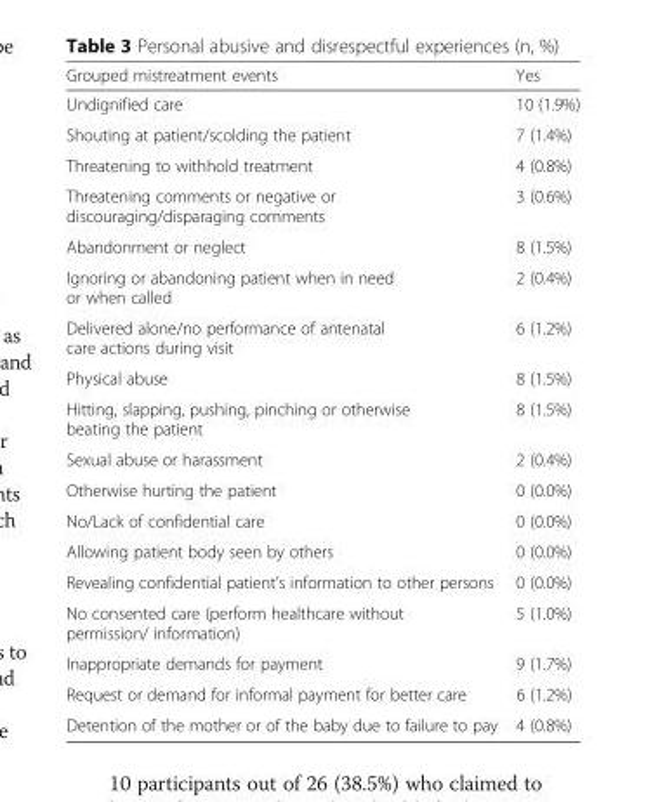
<table><thead><tr><td>Grouped mistreatment events</td><td>Yes</td></tr></thead><tbody><tr><td>Undignified care</td><td>10 (1.9%)</td></tr><tr><td>Shouting at patient/scolding the patient</td><td>7 (1.4%)</td></tr><tr><td>Threatening to withhold treatment</td><td>4 (0.8%)</td></tr><tr><td>Threatening comments or negative or discouraging/disparaging comments</td><td>3 (0.6%)</td></tr><tr><td>Abandonment or neglect</td><td>8 (1.5%)</td></tr><tr><td>Ignoring or abandoning patient when in need or when called</td><td>2 (0.4%)</td></tr><tr><td>Delivered alone/no performance of antenatal care actions during visit</td><td>6 (1.2%)</td></tr><tr><td>Physical abuse</td><td>8 (1.5%)</td></tr><tr><td>Hitting, slapping, pushing, pinching or otherwise beating the patient</td><td>8 (1.5%)</td></tr><tr><td>Sexual abuse or harassment</td><td>2 (0.4%)</td></tr><tr><td>Otherwise hurting the patient</td><td>0 (0.0%)</td></tr><tr><td>No/Lack of confidential care</td><td>0 (0.0%)</td></tr><tr><td>Allowing patient body seen by others</td><td>0 (0.0%)</td></tr><tr><td>Revealing confidential patient’s information to other persons</td><td>0 (0.0%)</td></tr><tr><td>No consented care (perform healthcare without permission/ information)</td><td>5 (1.0%)</td></tr><tr><td>Inappropriate demands for payment</td><td>9 (1.7%)</td></tr><tr><td>Request or demand for informal payment for better care</td><td>6 (1.2%)</td></tr><tr><td>Detention of the mother or of the baby due to failure to pay</td><td>4 (0.8%)</td></tr></tbody></table>